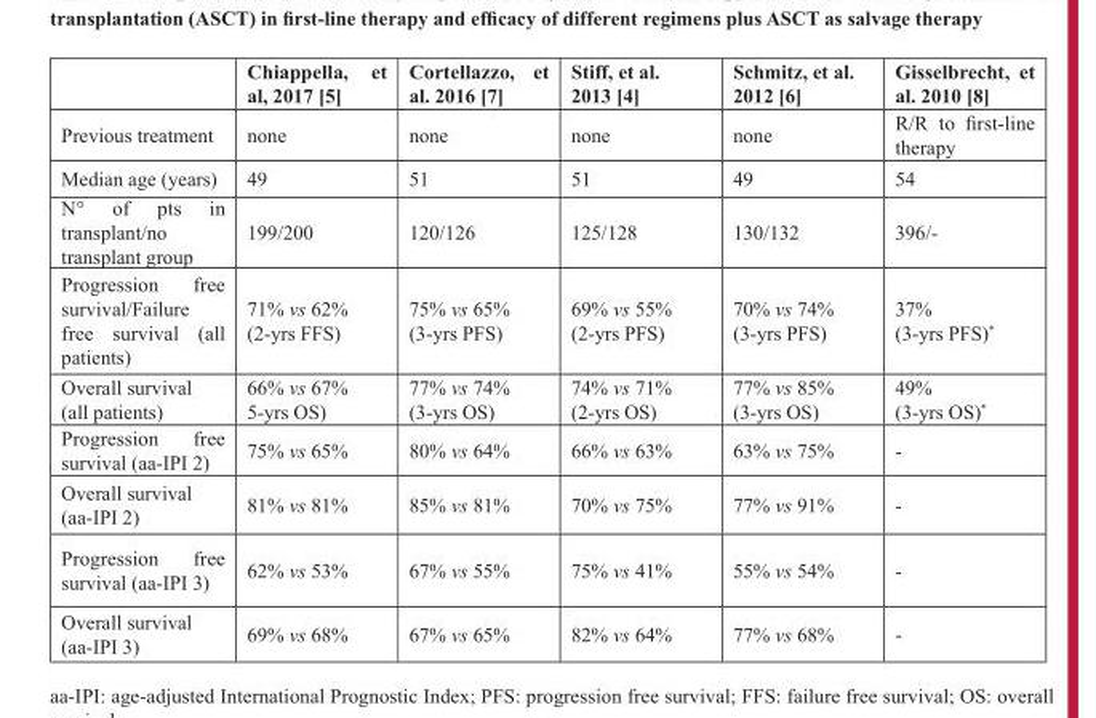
<table><thead><tr><td></td><td>Chiappella, et al, 2017 [5]</td><td>Cortellazzo, et al. 2016 [7]</td><td>Stiff, et al. 2013 [4]</td><td>Schmitz, et al. 2012 [6]</td><td>Gisselbrecht, et al. 2010 [8]</td></tr></thead><tbody><tr><td>Previous treatment</td><td>none</td><td>none</td><td>none</td><td>none</td><td>R/R to first-line therapy</td></tr><tr><td>Median age (years)</td><td>49</td><td>51</td><td>51</td><td>49</td><td>54</td></tr><tr><td>N° of pts in transplant/no transplant group</td><td>199/200</td><td>120/126</td><td>125/128</td><td>130/132</td><td>396/-</td></tr><tr><td>Progression free survival/Failure free survival (all patients)</td><td>71% vs 62% (2-yrs FFS)</td><td>75% vs 65% (3-yrs PFS)</td><td>69% vs 55% (2-yrs PFS)</td><td>70% vs 74% (3-yrs PFS)</td><td>37% (3-yrs PFS)*</td></tr><tr><td>Overall survival (all patients)</td><td>66% vs 67% 5-yrs OS)</td><td>77% vs 74% (3-yrs OS)</td><td>74% vs 71% (2-yrs OS)</td><td>77% vs 85% (3-yrs OS)</td><td>49% (3-yrs OS)*</td></tr><tr><td>Progression free survival (aa-IPI 2)</td><td>75% vs 65%</td><td>80% vs 64%</td><td>66% vs 63%</td><td>63% vs 75%</td><td>-</td></tr><tr><td>Overall survival (aa-IPI 2)</td><td>81% vs 81%</td><td>85% vs 81%</td><td>70% vs 75%</td><td>77% vs 91%</td><td>-</td></tr><tr><td>Progression free survival (aa-IPI 3)</td><td>62% vs 53%</td><td>67% vs 55%</td><td>75% vs 41%</td><td>55% vs 54%</td><td>-</td></tr><tr><td>Overall survival (aa-IPI 3)</td><td>69% vs 68%</td><td>67% vs 65%</td><td>82% vs 64%</td><td>77% vs 68%</td><td>-</td></tr></tbody></table>